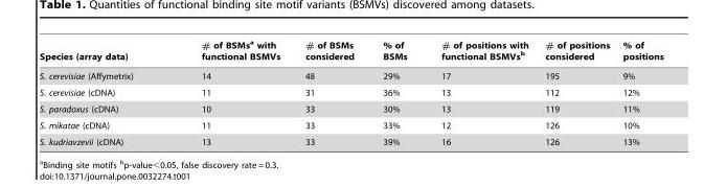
<table><thead><tr><td>Species (array data)</td><td># of BSMs<sup>a</sup> with functional BSMVs</td><td># of BSMs considered</td><td>% of BSMs</td><td># of positions with functional BSMVs<sup>b</sup></td><td># of positions considered</td><td>% of positions</td></tr></thead><tbody><tr><td>S. cerevisiae (Affymetrix)</td><td>14</td><td>48</td><td>29%</td><td>17</td><td>195</td><td>9%</td></tr><tr><td>S. cerevisiae (cDNA)</td><td>11</td><td>31</td><td>36%</td><td>13</td><td>112</td><td>12%</td></tr><tr><td>S. paradoxus (cDNA)</td><td>10</td><td>33</td><td>30%</td><td>13</td><td>119</td><td>11%</td></tr><tr><td>S. mikatae (cDNA)</td><td>11</td><td>33</td><td>33%</td><td>12</td><td>126</td><td>10%</td></tr><tr><td>S. kudriavzevii (cDNA)</td><td>13</td><td>33</td><td>39%</td><td>16</td><td>126</td><td>13%</td></tr></tbody></table>